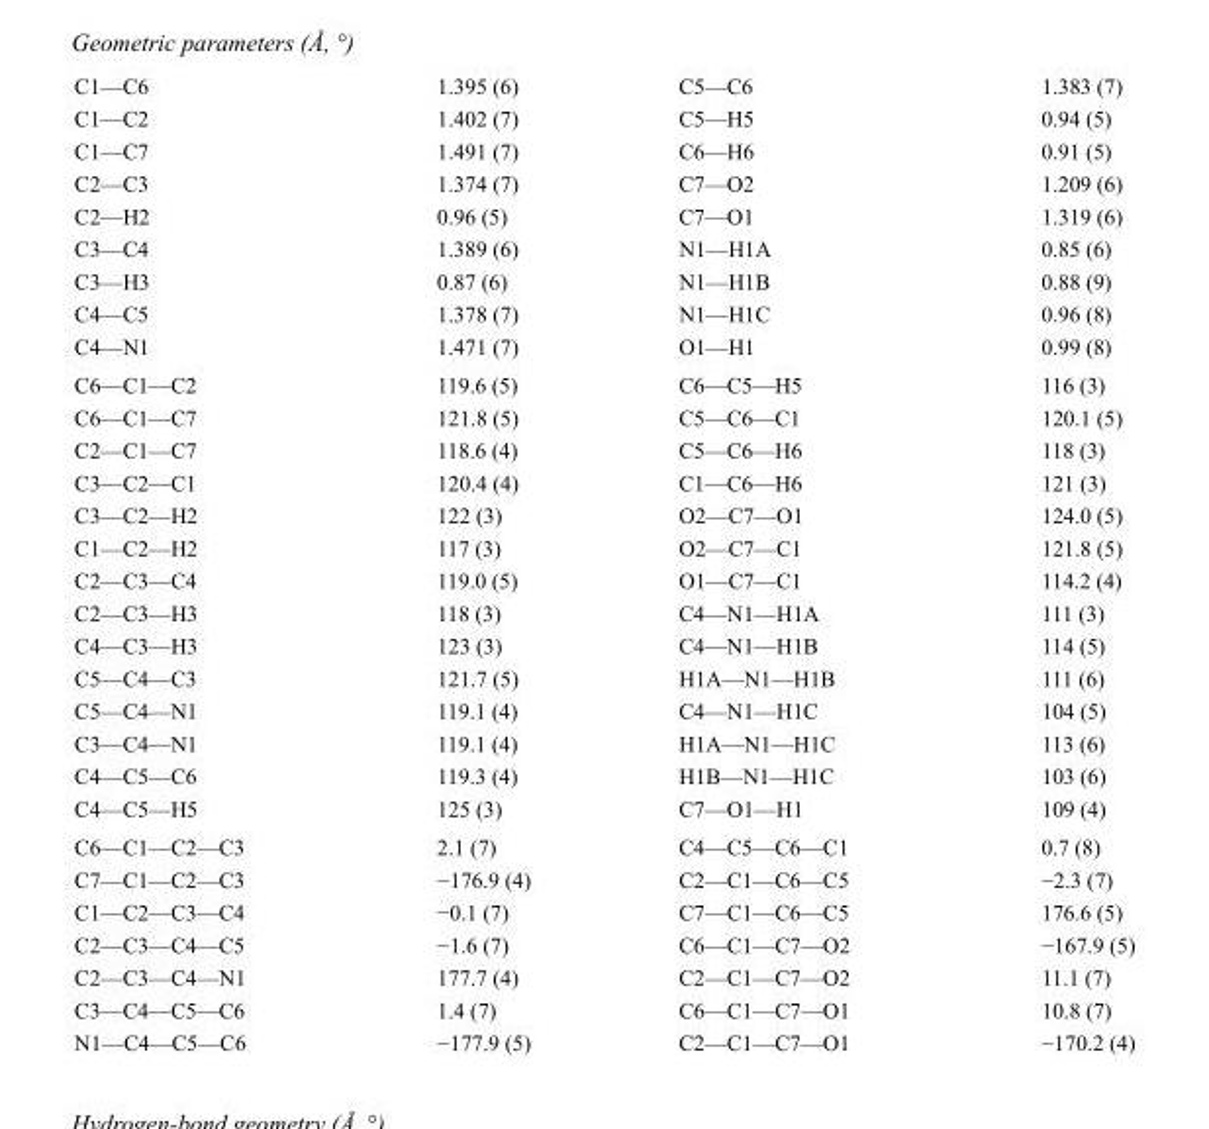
<table><tbody><tr><td>C1—C6</td><td>1.395 (6)</td><td>C5—C6</td><td>1.383 (7)</td></tr><tr><td>C1—C2</td><td>1.402 (7)</td><td>C5—H5</td><td>0.94 (5)</td></tr><tr><td>C1—C7</td><td>1.491 (7)</td><td>C6—H6</td><td>0.91 (5)</td></tr><tr><td>C2—C3</td><td>1.374 (7)</td><td>C7—O2</td><td>1.209 (6)</td></tr><tr><td>C2—H2</td><td>0.96 (5)</td><td>C7—O1</td><td>1.319 (6)</td></tr><tr><td>C3—C4</td><td>1.389 (6)</td><td>N1—H1A</td><td>0.85 (6)</td></tr><tr><td>C3—H3</td><td>0.87 (6)</td><td>N1—H1B</td><td>0.88 (9)</td></tr><tr><td>C4—C5</td><td>1.378 (7)</td><td>N1—H1C</td><td>0.96 (8)</td></tr><tr><td>C4—N1</td><td>1.471 (7)</td><td>O1—H1</td><td>0.99 (8)</td></tr><tr><td>C6—C1—C2</td><td>119.6 (5)</td><td>C6—C5—H5</td><td>116 (3)</td></tr><tr><td>C6—C1—C7</td><td>121.8 (5)</td><td>C5—C6—C1</td><td>120.1 (5)</td></tr><tr><td>C2—C1—C7</td><td>118.6 (4)</td><td>C5—C6—H6</td><td>118 (3)</td></tr><tr><td>C3—C2—C1</td><td>120.4 (4)</td><td>C1—C6—H6</td><td>121 (3)</td></tr><tr><td>C3—C2—H2</td><td>122 (3)</td><td>O2—C7—O1</td><td>124.0 (5)</td></tr><tr><td>C1—C2—H2</td><td>117 (3)</td><td>O2—C7—C1</td><td>121.8 (5)</td></tr><tr><td>C2—C3—C4</td><td>119.0 (5)</td><td>O1—C7—C1</td><td>114.2 (4)</td></tr><tr><td>C2—C3—H3</td><td>118 (3)</td><td>C4—N1—H1A</td><td>111 (3)</td></tr><tr><td>C4—C3—H3</td><td>123 (3)</td><td>C4—N1—H1B</td><td>114 (5)</td></tr><tr><td>C5—C4—C3</td><td>121.7 (5)</td><td>H1A—N1—H1B</td><td>111 (6)</td></tr><tr><td>C5—C4—N1</td><td>119.1 (4)</td><td>C4—N1—H1C</td><td>104 (5)</td></tr><tr><td>C3—C4—N1</td><td>119.1 (4)</td><td>H1A—N1—H1C</td><td>113 (6)</td></tr><tr><td>C4—C5—C6</td><td>119.3 (4)</td><td>H1B—N1—H1C</td><td>103 (6)</td></tr><tr><td>C4—C5—H5</td><td>125 (3)</td><td>C7—O1—H1</td><td>109 (4)</td></tr><tr><td>C6—C1—C2—C3</td><td>2.1 (7)</td><td>C4—C5—C6—C1</td><td>0.7 (8)</td></tr><tr><td>C7—C1—C2—C3</td><td>−176.9 (4)</td><td>C2—C1—C6—C5</td><td>−2.3 (7)</td></tr><tr><td>C1—C2—C3—C4</td><td>−0.1 (7)</td><td>C7—C1—C6—C5</td><td>176.6 (5)</td></tr><tr><td>C2—C3—C4—C5</td><td>−1.6 (7)</td><td>C6—C1—C7—O2</td><td>−167.9 (5)</td></tr><tr><td>C2—C3—C4—N1</td><td>177.7 (4)</td><td>C2—C1—C7—O2</td><td>11.1 (7)</td></tr><tr><td>C3—C4—C5—C6</td><td>1.4 (7)</td><td>C6—C1—C7—O1</td><td>10.8 (7)</td></tr><tr><td>N1—C4—C5—C6</td><td>−177.9 (5)</td><td>C2—C1—C7—O1</td><td>−170.2 (4)</td></tr></tbody></table>